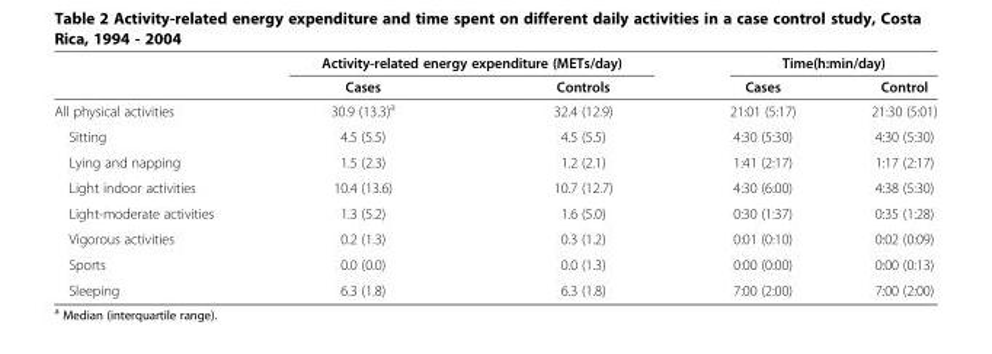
<table><thead><tr><td rowspan="2"></td><td colspan="2">Activity-related energy expenditure (METs/day)</td><td colspan="2">Time(h:min/day)</td></tr><tr><td>Cases</td><td>Controls</td><td>Cases</td><td>Control</td></tr></thead><tbody><tr><td>All physical activities</td><td>30.9 (13.3)<sup>a</sup></td><td>32.4 (12.9)</td><td>21:01 (5:17)</td><td>21:30 (5:01)</td></tr><tr><td>Sitting</td><td>4.5 (5.5)</td><td>4.5 (5.5)</td><td>4:30 (5:30)</td><td>4:30 (5:30)</td></tr><tr><td>Lying and napping</td><td>1.5 (2.3)</td><td>1.2 (2.1)</td><td>1:41 (2:17)</td><td>1:17 (2:17)</td></tr><tr><td>Light indoor activities</td><td>10.4 (13.6)</td><td>10.7 (12.7)</td><td>4:30 (6:00)</td><td>4:38 (5:30)</td></tr><tr><td>Light-moderate activities</td><td>1.3 (5.2)</td><td>1.6 (5.0)</td><td>0:30 (1:37)</td><td>0:35 (1:28)</td></tr><tr><td>Vigorous activities</td><td>0.2 (1.3)</td><td>0.3 (1.2)</td><td>0:01 (0:10)</td><td>0:02 (0:09)</td></tr><tr><td>Sports</td><td>0.0 (0.0)</td><td>0.0 (1.3)</td><td>0:00 (0:00)</td><td>0:00 (0:13)</td></tr><tr><td>Sleeping</td><td>6.3 (1.8)</td><td>6.3 (1.8)</td><td>7:00 (2:00)</td><td>7:00 (2:00)</td></tr></tbody></table>